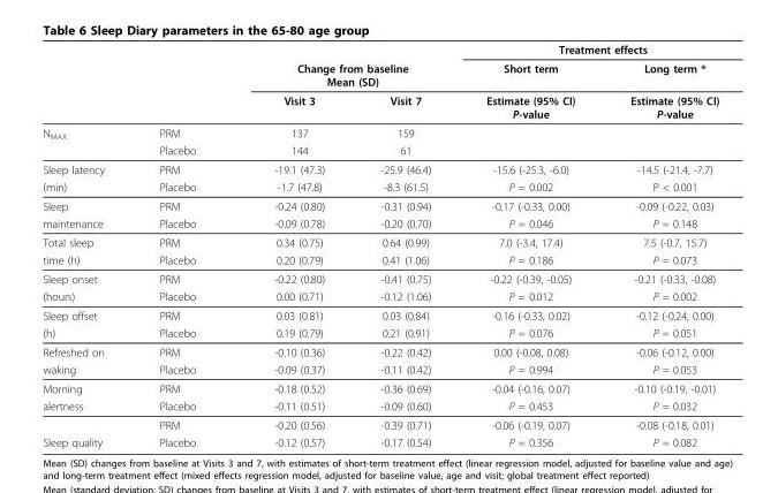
<table><thead><tr><td rowspan="3"></td><td rowspan="3"></td><td></td><td></td><td colspan="2">Treatment effects</td></tr><tr><td colspan="2">Change from baseline Mean (SD)</td><td rowspan="2">Short term Estimate (95% CI) P-value</td><td rowspan="2">Long term * Estimate (95% CI) P-value</td></tr><tr><td>Visit 3</td><td>Visit 7</td></tr></thead><tbody><tr><td rowspan="2">NMAX</td><td>PRM</td><td>137</td><td>159</td><td></td><td></td></tr><tr><td>Placebo</td><td>144</td><td>61</td><td></td><td></td></tr><tr><td>Sleep latency</td><td>PRM</td><td>-19.1 (47.3)</td><td>-25.9 (46.4)</td><td>-15.6 (-25.3, -6.0)</td><td>-14.5 (-21.4, -7.7)</td></tr><tr><td>(min)</td><td>Placebo</td><td>-1.7 (47.8)</td><td>-8.3 (61.5)</td><td>P = 0.002</td><td>P &lt; 0.001</td></tr><tr><td>Sleep</td><td>PRM</td><td>-0.24 (0.80)</td><td>-0.31 (0.94)</td><td>-0.17 (-0.33, 0.00)</td><td>-0.09 (-0.22, 0.03)</td></tr><tr><td>maintenance</td><td>Placebo</td><td>-0.09 (0.78)</td><td>-0.20 (0.70)</td><td>P = 0.046</td><td>P = 0.148</td></tr><tr><td>Total sleep</td><td>PRM</td><td>0.34 (0.75)</td><td>0.64 (0.99)</td><td>7.0 (-3.4, 17.4)</td><td>7.5 (-0.7, 15.7)</td></tr><tr><td>time (h)</td><td>Placebo</td><td>0.20 (0.79)</td><td>0.41 (1.06)</td><td>P = 0.186</td><td>P = 0.073</td></tr><tr><td>Sleep onset</td><td>PRM</td><td>-0.22 (0.80)</td><td>-0.41 (0.75)</td><td>-0.22 (-0.39, -0.05)</td><td>-0.21 (-0.33, -0.08)</td></tr><tr><td>(hours)</td><td>Placebo</td><td>0.00 (0.71)</td><td>-0.12 (1.06)</td><td>P = 0.012</td><td>P = 0.002</td></tr><tr><td>Sleep offset</td><td>PRM</td><td>0.03 (0.81)</td><td>0.03 (0.84)</td><td>-0.16 (-0.33, 0.02)</td><td>-0.12 (-0.24, 0.00)</td></tr><tr><td>(h)</td><td>Placebo</td><td>0.19 (0.79)</td><td>0.21 (0.91)</td><td>P = 0.076</td><td>P = 0.051</td></tr><tr><td>Refreshed on</td><td>PRM</td><td>-0.10 (0.36)</td><td>-0.22 (0.42)</td><td>0.00 (-0.08, 0.08)</td><td>-0.06 (-0.12, 0.00)</td></tr><tr><td>waking</td><td>Placebo</td><td>-0.09 (0.37)</td><td>-0.11 (0.42)</td><td>P = 0.994</td><td>P = 0.053</td></tr><tr><td>Morning</td><td>PRM</td><td>-0.18 (0.52)</td><td>-0.36 (0.69)</td><td>-0.04 (-0.16, 0.07)</td><td>-0.10 (-0.19, -0.01)</td></tr><tr><td rowspan="2">alertness</td><td>Placebo</td><td>-0.11 (0.51)</td><td>-0.09 (0.60)</td><td>P = 0.453</td><td>P = 0.032</td></tr><tr><td>PRM</td><td>-0.20 (0.56)</td><td>-0.39 (0.71)</td><td>-0.06 (-0.19, 0.07)</td><td>-0.08 (-0.18, 0.01)</td></tr><tr><td>Sleep quality</td><td>Placebo</td><td>-0.12 (0.57)</td><td>-0.17 (0.54)</td><td>P = 0.356</td><td>P = 0.082</td></tr></tbody></table>